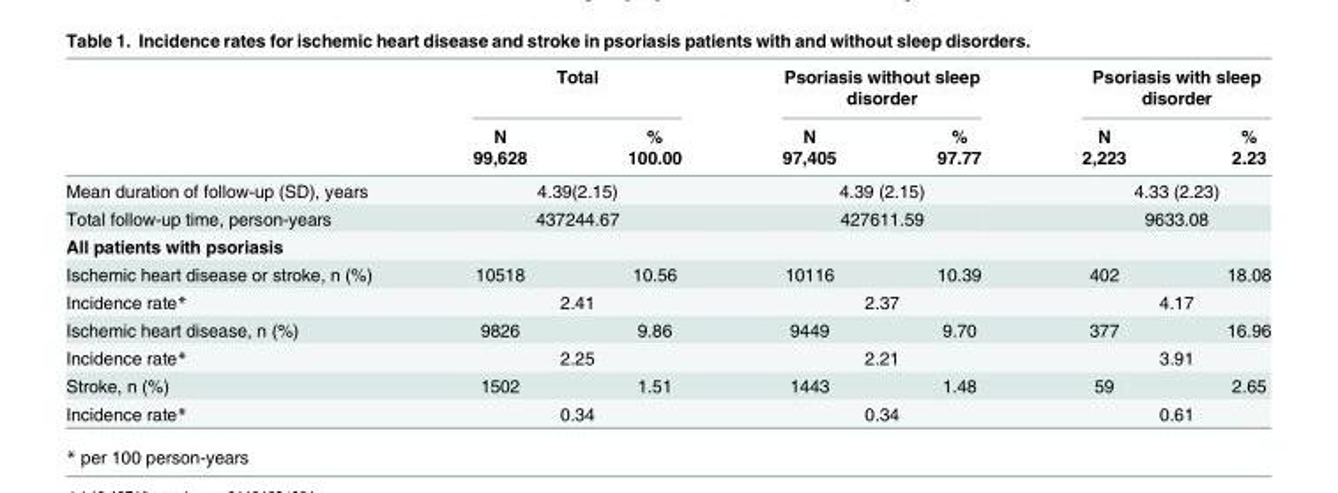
<table><thead><tr><td rowspan="3"></td><td colspan="2">Total</td><td colspan="2">Psoriasis without sleep disorder</td><td colspan="2">Psoriasis with sleep disorder</td></tr><tr><td rowspan="2">N 99,628</td><td rowspan="2">% 100.00</td><td rowspan="2">N 97,405</td><td rowspan="2">% 97.77</td><td rowspan="2">N 2,223</td><td rowspan="2">% 2.23</td></tr><tr></tr></thead><tbody><tr><td>Mean duration of follow-up (SD), years</td><td colspan="2">4.39(2.15)</td><td colspan="2">4.39 (2.15)</td><td colspan="2">4.33 (2.23)</td></tr><tr><td>Total follow-up time, person-years</td><td colspan="2">437244.67</td><td colspan="2">427611.59</td><td colspan="2">9633.08</td></tr><tr><td colspan="7">All patients with psoriasis</td></tr><tr><td>Ischemic heart disease or stroke, n (%)</td><td>10518</td><td>10.56</td><td>10116</td><td>10.39</td><td>402</td><td>18.08</td></tr><tr><td>Incidence rate*</td><td colspan="2">2.41</td><td colspan="2">2.37</td><td colspan="2">4.17</td></tr><tr><td>Ischemic heart disease, n (%)</td><td>9826</td><td>9.86</td><td>9449</td><td>9.70</td><td>377</td><td>16.96</td></tr><tr><td>Incidence rate*</td><td colspan="2">2.25</td><td colspan="2">2.21</td><td colspan="2">3.91</td></tr><tr><td>Stroke, n (%)</td><td>1502</td><td>1.51</td><td>1443</td><td>1.48</td><td>59</td><td>2.65</td></tr><tr><td>Incidence rate*</td><td colspan="2">0.34</td><td colspan="2">0.34</td><td colspan="2">0.61</td></tr></tbody></table>